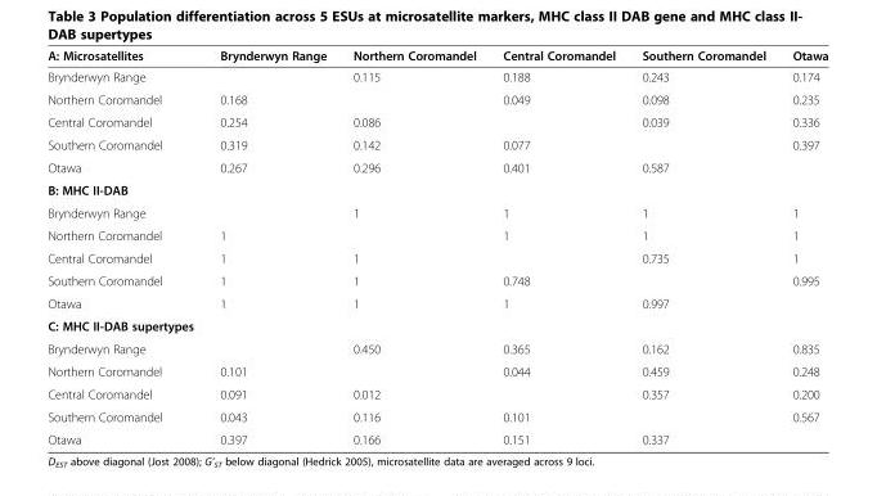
<table><thead><tr><td>A: Microsatellites</td><td>Brynderwyn Range</td><td>Northern Coromandel</td><td>Central Coromandel</td><td>Southern Coromandel</td><td>Otawa</td></tr></thead><tbody><tr><td>Brynderwyn Range</td><td></td><td>0.115</td><td>0.188</td><td>0.243</td><td>0.174</td></tr><tr><td>Northern Coromandel</td><td>0.168</td><td></td><td>0.049</td><td>0.098</td><td>0.235</td></tr><tr><td>Central Coromandel</td><td>0.254</td><td>0.086</td><td></td><td>0.039</td><td>0.336</td></tr><tr><td>Southern Coromandel</td><td>0.319</td><td>0.142</td><td>0.077</td><td></td><td>0.397</td></tr><tr><td>Otawa</td><td>0.267</td><td>0.296</td><td>0.401</td><td>0.587</td><td></td></tr><tr><td colspan="6">B: MHC II-DAB</td></tr><tr><td>Brynderwyn Range</td><td></td><td>1</td><td>1</td><td>1</td><td>1</td></tr><tr><td>Northern Coromandel</td><td>1</td><td></td><td>1</td><td>1</td><td>1</td></tr><tr><td>Central Coromandel</td><td>1</td><td>1</td><td></td><td>0.735</td><td>1</td></tr><tr><td>Southern Coromandel</td><td>1</td><td>1</td><td>0.748</td><td></td><td>0.995</td></tr><tr><td>Otawa</td><td>1</td><td>1</td><td>1</td><td>0.997</td><td></td></tr><tr><td colspan="6">C: MHC II-DAB supertypes</td></tr><tr><td>Brynderwyn Range</td><td></td><td>0.450</td><td>0.365</td><td>0.162</td><td>0.835</td></tr><tr><td>Northern Coromandel</td><td>0.101</td><td></td><td>0.044</td><td>0.459</td><td>0.248</td></tr><tr><td>Central Coromandel</td><td>0.091</td><td>0.012</td><td></td><td>0.357</td><td>0.200</td></tr><tr><td>Southern Coromandel</td><td>0.043</td><td>0.116</td><td>0.101</td><td></td><td>0.567</td></tr><tr><td>Otawa</td><td>0.397</td><td>0.166</td><td>0.151</td><td>0.337</td><td></td></tr></tbody></table>